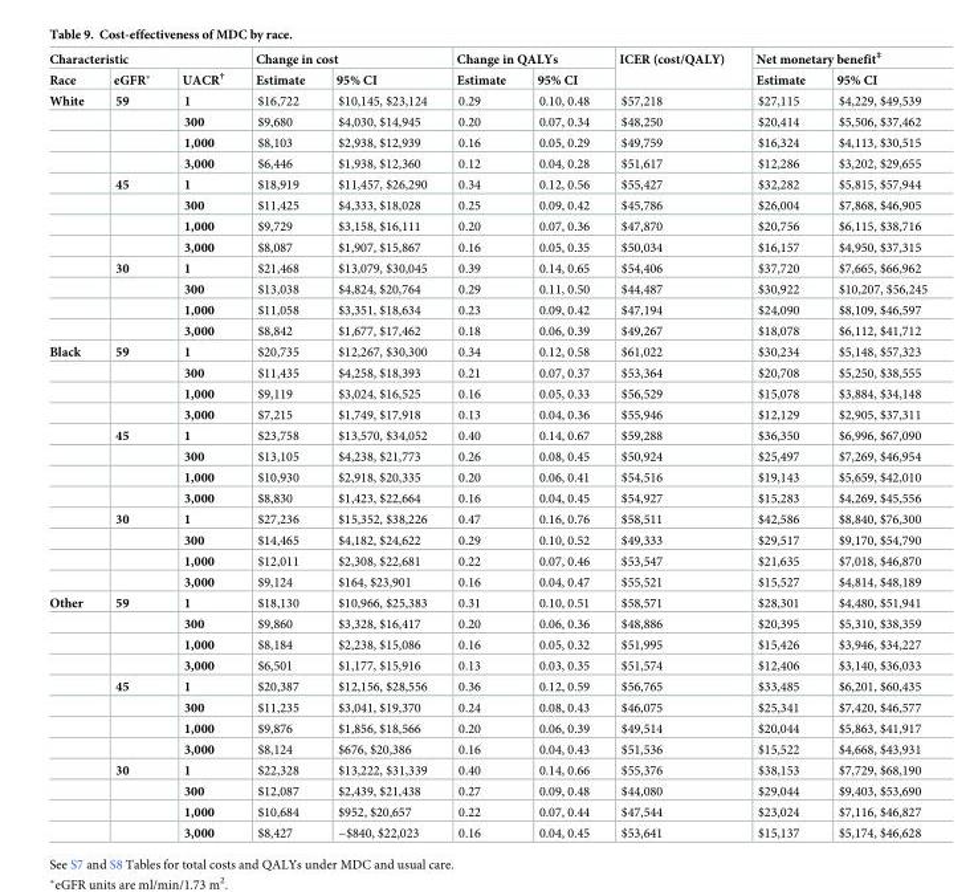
<table><thead><tr><td colspan="3">Characteristic</td><td colspan="2">Change in cost</td><td colspan="2">Change in QALYs</td><td rowspan="2">ICER (cost/QALY)</td><td colspan="2">Net monetary benefit<sup>‡</sup></td></tr><tr><td>Race</td><td>eGFR*</td><td>UACR<sup>†</sup></td><td>Estimate</td><td>95% CI</td><td>Estimate</td><td>95% CI</td><td>Estimate</td><td>95% CI</td></tr></thead><tbody><tr><td rowspan="12">White</td><td>59</td><td>1</td><td>$16,722</td><td>$10,145, $23,124</td><td>0.29</td><td>0.10, 0.48</td><td>$57,218</td><td>$27,115</td><td>$4,229, $49,539</td></tr><tr><td></td><td>300</td><td>$9,680</td><td>$4,030, $14,945</td><td>0.20</td><td>0.07, 0.34</td><td>$48,250</td><td>$20,414</td><td>$5,506, $37,462</td></tr><tr><td></td><td>1,000</td><td>$8,103</td><td>$2,938, $12,939</td><td>0.16</td><td>0.05, 0.29</td><td>$49,759</td><td>$16,324</td><td>$4,113, $30,515</td></tr><tr><td></td><td>3,000</td><td>$6,446</td><td>$1,938, $12,360</td><td>0.12</td><td>0.04, 0.28</td><td>$51,617</td><td>$12,286</td><td>$3,202, $29,655</td></tr><tr><td>45</td><td>1</td><td>$18,919</td><td>$11,457, $26,290</td><td>0.34</td><td>0.12, 0.56</td><td>$55,427</td><td>$32,282</td><td>$5,815, $57,944</td></tr><tr><td></td><td>300</td><td>$11,425</td><td>$4,333, $18,028</td><td>0.25</td><td>0.09, 0.42</td><td>$45,786</td><td>$26,004</td><td>$7,868, $46,905</td></tr><tr><td></td><td>1,000</td><td>$9,729</td><td>$3,158, $16,111</td><td>0.20</td><td>0.07, 0.36</td><td>$47,870</td><td>$20,756</td><td>$6,115, $38,716</td></tr><tr><td></td><td>3,000</td><td>$8,087</td><td>$1,907, $15,867</td><td>0.16</td><td>0.05, 0.35</td><td>$50,034</td><td>$16,157</td><td>$4,950, $37,315</td></tr><tr><td>30</td><td>1</td><td>$21,468</td><td>$13,079, $30,045</td><td>0.39</td><td>0.14, 0.65</td><td>$54,406</td><td>$37,720</td><td>$7,665, $66,962</td></tr><tr><td></td><td>300</td><td>$13,038</td><td>$4,824, $20,764</td><td>0.29</td><td>0.11, 0.50</td><td>$44,487</td><td>$30,922</td><td>$10,207, $56,245</td></tr><tr><td></td><td>1,000</td><td>$11,058</td><td>$3,351, $18,634</td><td>0.23</td><td>0.09, 0.42</td><td>$47,194</td><td>$24,090</td><td>$8,109, $46,597</td></tr><tr><td></td><td>3,000</td><td>$8,842</td><td>$1,677, $17,462</td><td>0.18</td><td>0.06, 0.39</td><td>$49,267</td><td>$18,078</td><td>$6,112, $41,712</td></tr><tr><td rowspan="12">Black</td><td>59</td><td>1</td><td>$20,735</td><td>$12,267, $30,300</td><td>0.34</td><td>0.12, 0.58</td><td>$61,022</td><td>$30,234</td><td>$5,148, $57,323</td></tr><tr><td></td><td>300</td><td>$11,435</td><td>$4,258, $18,393</td><td>0.21</td><td>0.07, 0.37</td><td>$53,364</td><td>$20,708</td><td>$5,250, $38,555</td></tr><tr><td></td><td>1,000</td><td>$9,119</td><td>$3,024, $16,525</td><td>0.16</td><td>0.05, 0.33</td><td>$56,529</td><td>$15,078</td><td>$3,884, $34,148</td></tr><tr><td></td><td>3,000</td><td>$7,215</td><td>$1,749, $17,918</td><td>0.13</td><td>0.04, 0.36</td><td>$55,946</td><td>$12,129</td><td>$2,905, $37,311</td></tr><tr><td>45</td><td>1</td><td>$23,758</td><td>$13,570, $34,052</td><td>0.40</td><td>0.14, 0.67</td><td>$59,288</td><td>$36,350</td><td>$6,996, $67,090</td></tr><tr><td></td><td>300</td><td>$13,105</td><td>$4,238, $21,773</td><td>0.26</td><td>0.08, 0.45</td><td>$50,924</td><td>$25,497</td><td>$7,269, $46,954</td></tr><tr><td></td><td>1,000</td><td>$10,930</td><td>$2,918, $20,335</td><td>0.20</td><td>0.06, 0.41</td><td>$54,516</td><td>$19,143</td><td>$5,659, $42,010</td></tr><tr><td></td><td>3,000</td><td>$8,830</td><td>$1,423, $22,664</td><td>0.16</td><td>0.04, 0.45</td><td>$54,927</td><td>$15,283</td><td>$4,269, $45,556</td></tr><tr><td>30</td><td>1</td><td>$27,236</td><td>$15,352, $38,226</td><td>0.47</td><td>0.16, 0.76</td><td>$58,511</td><td>$42,586</td><td>$8,840, $76,300</td></tr><tr><td></td><td>300</td><td>$14,465</td><td>$4,182, $24,622</td><td>0.29</td><td>0.10, 0.52</td><td>$49,333</td><td>$29,517</td><td>$9,170, $54,790</td></tr><tr><td></td><td>1,000</td><td>$12,011</td><td>$2,308, $22,681</td><td>0.22</td><td>0.07, 0.46</td><td>$53,547</td><td>$21,635</td><td>$7,018, $46,870</td></tr><tr><td></td><td>3,000</td><td>$9,124</td><td>$164, $23,901</td><td>0.16</td><td>0.04, 0.47</td><td>$55,521</td><td>$15,527</td><td>$4,814, $48,189</td></tr><tr><td rowspan="12">Other</td><td>59</td><td>1</td><td>$18,130</td><td>$10,966, $25,383</td><td>0.31</td><td>0.10, 0.51</td><td>$58,571</td><td>$28,301</td><td>$4,480, $51,941</td></tr><tr><td></td><td>300</td><td>$9,860</td><td>$3,328, $16,417</td><td>0.20</td><td>0.06, 0.36</td><td>$48,886</td><td>$20,395</td><td>$5,310, $38,359</td></tr><tr><td></td><td>1,000</td><td>$8,184</td><td>$2,238, $15,086</td><td>0.16</td><td>0.05, 0.32</td><td>$51,995</td><td>$15,426</td><td>$3,946, $34,227</td></tr><tr><td></td><td>3,000</td><td>$6,501</td><td>$1,177, $15,916</td><td>0.13</td><td>0.03, 0.35</td><td>$51,574</td><td>$12,406</td><td>$3,140, $36,033</td></tr><tr><td>45</td><td>1</td><td>$20,387</td><td>$12,156, $28,556</td><td>0.36</td><td>0.12, 0.59</td><td>$56,765</td><td>$33,485</td><td>$6,201, $60,435</td></tr><tr><td></td><td>300</td><td>$11,235</td><td>$3,041, $19,370</td><td>0.24</td><td>0.08, 0.43</td><td>$46,075</td><td>$25,341</td><td>$7,420, $46,577</td></tr><tr><td></td><td>1,000</td><td>$9,876</td><td>$1,856, $18,566</td><td>0.20</td><td>0.06, 0.39</td><td>$49,514</td><td>$20,044</td><td>$5,863, $41,917</td></tr><tr><td></td><td>3,000</td><td>$8,124</td><td>$676, $20,386</td><td>0.16</td><td>0.04, 0.43</td><td>$51,536</td><td>$15,522</td><td>$4,668, $43,931</td></tr><tr><td>30</td><td>1</td><td>$22,328</td><td>$13,222, $31,339</td><td>0.40</td><td>0.14, 0.66</td><td>$55,376</td><td>$38,153</td><td>$7,729, $68,190</td></tr><tr><td></td><td>300</td><td>$12,087</td><td>$2,439, $21,438</td><td>0.27</td><td>0.09, 0.48</td><td>$44,080</td><td>$29,044</td><td>$9,403, $53,690</td></tr><tr><td></td><td>1,000</td><td>$10,684</td><td>$952, $20,657</td><td>0.22</td><td>0.07, 0.44</td><td>$47,544</td><td>$23,024</td><td>$7,116, $46,827</td></tr><tr><td></td><td>3,000</td><td>$8,427</td><td>−$840, $22,023</td><td>0.16</td><td>0.04, 0.45</td><td>$53,641</td><td>$15,137</td><td>$5,174, $46,628</td></tr></tbody></table>